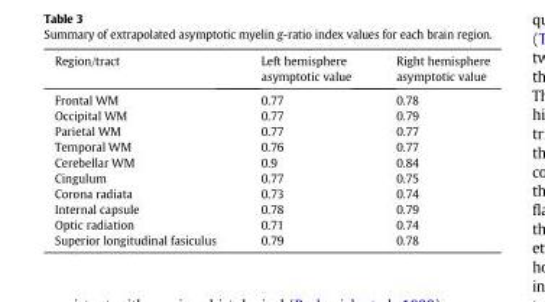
<table><thead><tr><td>Region/tract</td><td>Left hemisphere asymptotic value</td><td>Right hemisphere asymptotic value</td></tr></thead><tbody><tr><td>Frontal WM</td><td>0.77</td><td>0.78</td></tr><tr><td>Occipital WM</td><td>0.77</td><td>0.79</td></tr><tr><td>Parietal WM</td><td>0.77</td><td>0.77</td></tr><tr><td>Temporal WM</td><td>0.76</td><td>0.77</td></tr><tr><td>Cerebellar WM</td><td>0.9</td><td>0.84</td></tr><tr><td>Cingulum</td><td>0.77</td><td>0.75</td></tr><tr><td>Corona radiata</td><td>0.73</td><td>0.74</td></tr><tr><td>Internal capsule</td><td>0.78</td><td>0.79</td></tr><tr><td>Optic radiation</td><td>0.71</td><td>0.74</td></tr><tr><td>Superior longitudinal fasiculus</td><td>0.79</td><td>0.78</td></tr></tbody></table>